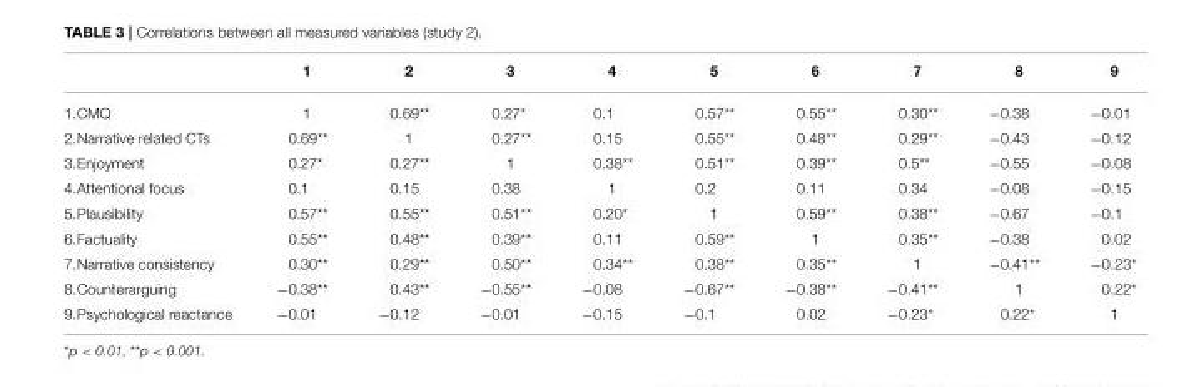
<table><thead><tr><td></td><td>1</td><td>2</td><td>3</td><td>4</td><td>5</td><td>6</td><td>7</td><td>8</td><td>9</td></tr></thead><tbody><tr><td>1.CMQ</td><td>1</td><td>0.69**</td><td>0.27*</td><td>0.1</td><td>0.57**</td><td>0.55**</td><td>0.30**</td><td>−0.38</td><td>−0.01</td></tr><tr><td>2.Narrative related CTs</td><td>0.69**</td><td>1</td><td>0.27**</td><td>0.15</td><td>0.55**</td><td>0.48**</td><td>0.29**</td><td>−0.43</td><td>−0.12</td></tr><tr><td>3.Enjoyment</td><td>0.27*</td><td>0.27**</td><td>1</td><td>0.38**</td><td>0.51**</td><td>0.39**</td><td>0.5**</td><td>−0.55</td><td>−0.08</td></tr><tr><td>4.Attentional focus</td><td>0.1</td><td>0.15</td><td>0.38</td><td>1</td><td>0.2</td><td>0.11</td><td>0.34</td><td>−0.08</td><td>−0.15</td></tr><tr><td>5.Plausibility</td><td>0.57**</td><td>0.55**</td><td>0.51**</td><td>0.20*</td><td>1</td><td>0.59**</td><td>0.38**</td><td>−0.67</td><td>−0.1</td></tr><tr><td>6.Factuality</td><td>0.55**</td><td>0.48**</td><td>0.39**</td><td>0.11</td><td>0.59**</td><td>1</td><td>0.35**</td><td>−0.38</td><td>0.02</td></tr><tr><td>7.Narrative consistency</td><td>0.30**</td><td>0.29**</td><td>0.50**</td><td>0.34**</td><td>0.38**</td><td>0.35**</td><td>1</td><td>−0.41**</td><td>−0.23*</td></tr><tr><td>8.Counterarguing</td><td>−0.38**</td><td>0.43**</td><td>−0.55**</td><td>−0.08</td><td>−0.67**</td><td>−0.38**</td><td>−0.41**</td><td>1</td><td>0.22*</td></tr><tr><td>9.Psychological reactance</td><td>−0.01</td><td>−0.12</td><td>−0.01</td><td>−0.15</td><td>−0.1</td><td>0.02</td><td>−0.23*</td><td>0.22*</td><td>1</td></tr></tbody></table>